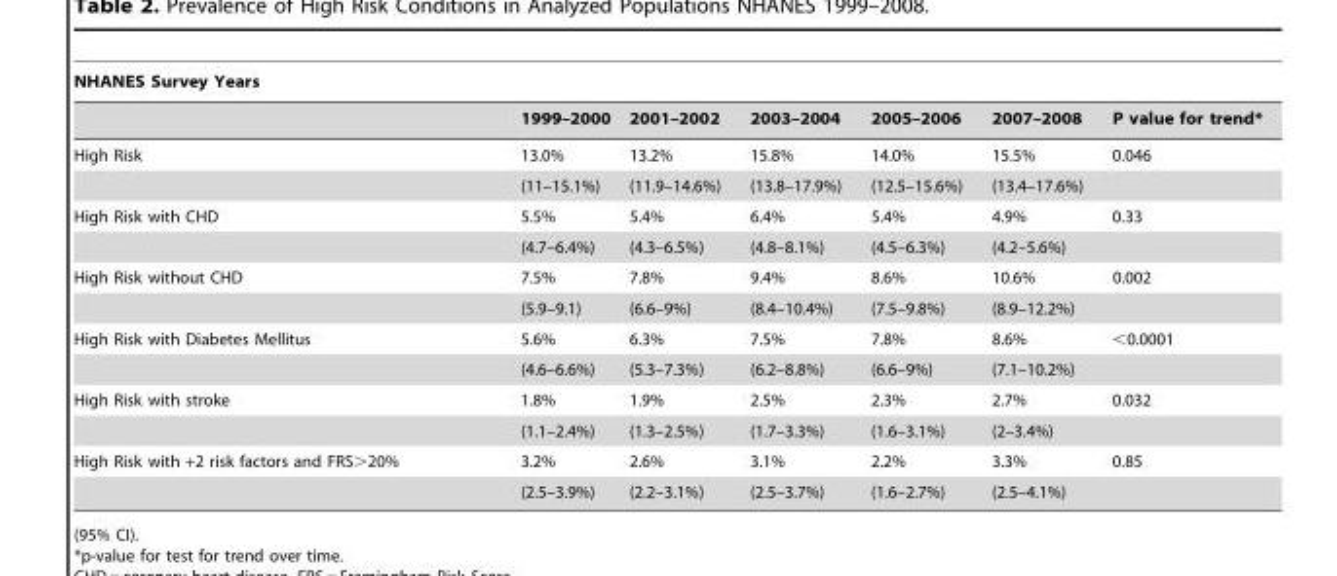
<table><thead><tr><td colspan="7">NHANES Survey Years</td></tr><tr><td></td><td>1999–2000</td><td>2001–2002</td><td>2003–2004</td><td>2005–2006</td><td>2007–2008</td><td>P value for trend*</td></tr></thead><tbody><tr><td rowspan="2">High Risk</td><td>13.0%</td><td>13.2%</td><td>15.8%</td><td>14.0%</td><td>15.5%</td><td>0.046</td></tr><tr><td>(11–15.1%)</td><td>(11.9–14.6%)</td><td>(13.8–17.9%)</td><td>(12.5–15.6%)</td><td>(13.4–17.6%)</td><td></td></tr><tr><td rowspan="2">High Risk with CHD</td><td>5.5%</td><td>5.4%</td><td>6.4%</td><td>5.4%</td><td>4.9%</td><td>0.33</td></tr><tr><td>(4.7–6.4%)</td><td>(4.3–6.5%)</td><td>(4.8–8.1%)</td><td>(4.5–6.3%)</td><td>(4.2–5.6%)</td><td></td></tr><tr><td rowspan="2">High Risk without CHD</td><td>7.5%</td><td>7.8%</td><td>9.4%</td><td>8.6%</td><td>10.6%</td><td>0.002</td></tr><tr><td>(5.9–9.1)</td><td>(6.6–9%)</td><td>(8.4–10.4%)</td><td>(7.5–9.8%)</td><td>(8.9–12.2%)</td><td></td></tr><tr><td rowspan="2">High Risk with Diabetes Mellitus</td><td>5.6%</td><td>6.3%</td><td>7.5%</td><td>7.8%</td><td>8.6%</td><td>&lt;0.0001</td></tr><tr><td>(4.6–6.6%)</td><td>(5.3–7.3%)</td><td>(6.2–8.8%)</td><td>(6.6–9%)</td><td>(7.1–10.2%)</td><td></td></tr><tr><td rowspan="2">High Risk with stroke</td><td>1.8%</td><td>1.9%</td><td>2.5%</td><td>2.3%</td><td>2.7%</td><td>0.032</td></tr><tr><td>(1.1–2.4%)</td><td>(1.3–2.5%)</td><td>(1.7–3.3%)</td><td>(1.6–3.1%)</td><td>(2–3.4%)</td><td></td></tr><tr><td rowspan="2">High Risk with +2 risk factors and FRS&gt;20%</td><td>3.2%</td><td>2.6%</td><td>3.1%</td><td>2.2%</td><td>3.3%</td><td>0.85</td></tr><tr><td>(2.5–3.9%)</td><td>(2.2–3.1%)</td><td>(2.5–3.7%)</td><td>(1.6–2.7%)</td><td>(2.5–4.1%)</td><td></td></tr></tbody></table>